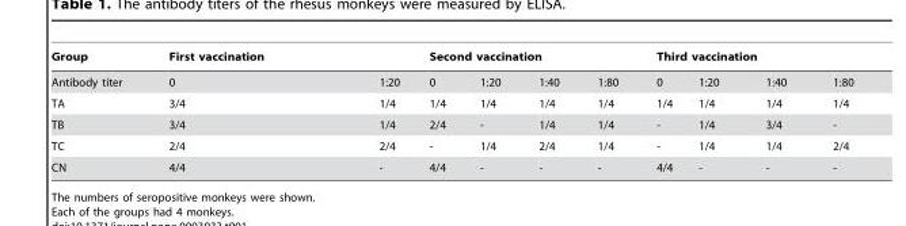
<table><thead><tr><td rowspan="2">Group Antibody titer</td><td colspan="2">First vaccination</td><td colspan="4">Second vaccination</td><td colspan="4">Third vaccination</td></tr><tr><td>0</td><td>1:20</td><td>0</td><td>1:20</td><td>1:40</td><td>1:80</td><td>0</td><td>1:20</td><td>1:40</td><td>1:80</td></tr></thead><tbody><tr><td>TA</td><td>3/4</td><td>1/4</td><td>1/4</td><td>1/4</td><td>1/4</td><td>1/4</td><td>1/4</td><td>1/4</td><td>1/4</td><td>1/4</td></tr><tr><td>TB</td><td>3/4</td><td>1/4</td><td>2/4</td><td>-</td><td>1/4</td><td>1/4</td><td>-</td><td>1/4</td><td>3/4</td><td>-</td></tr><tr><td>TC</td><td>2/4</td><td>2/4</td><td>-</td><td>1/4</td><td>2/4</td><td>1/4</td><td>-</td><td>1/4</td><td>1/4</td><td>2/4</td></tr><tr><td>CN</td><td>4/4</td><td>-</td><td>4/4</td><td>-</td><td>-</td><td>-</td><td>4/4</td><td>-</td><td>-</td><td>-</td></tr></tbody></table>